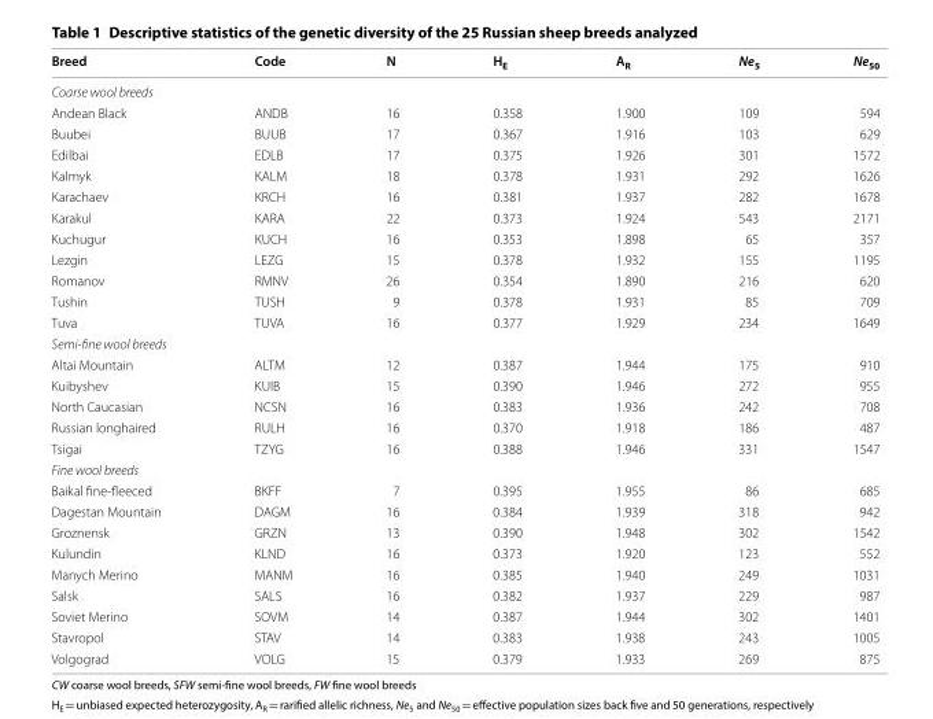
<table><thead><tr><td>Breed</td><td>Code</td><td>N</td><td>H<sub>E</sub></td><td>A<sub>R</sub></td><td>Ne<sub>5</sub></td><td>Ne<sub>50</sub></td></tr></thead><tbody><tr><td colspan="7">Coarse wool breeds</td></tr><tr><td>Andean Black</td><td>ANDB</td><td>16</td><td>0.358</td><td>1.900</td><td>109</td><td>594</td></tr><tr><td>Buubei</td><td>BUUB</td><td>17</td><td>0.367</td><td>1.916</td><td>103</td><td>629</td></tr><tr><td>Edilbai</td><td>EDLB</td><td>17</td><td>0.375</td><td>1.926</td><td>301</td><td>1572</td></tr><tr><td>Kalmyk</td><td>KALM</td><td>18</td><td>0.378</td><td>1.931</td><td>292</td><td>1626</td></tr><tr><td>Karachaev</td><td>KRCH</td><td>16</td><td>0.381</td><td>1.937</td><td>282</td><td>1678</td></tr><tr><td>Karakul</td><td>KARA</td><td>22</td><td>0.373</td><td>1.924</td><td>543</td><td>2171</td></tr><tr><td>Kuchugur</td><td>KUCH</td><td>16</td><td>0.353</td><td>1.898</td><td>65</td><td>357</td></tr><tr><td>Lezgin</td><td>LEZG</td><td>15</td><td>0.378</td><td>1.932</td><td>155</td><td>1195</td></tr><tr><td>Romanov</td><td>RMNV</td><td>26</td><td>0.354</td><td>1.890</td><td>216</td><td>620</td></tr><tr><td>Tushin</td><td>TUSH</td><td>9</td><td>0.378</td><td>1.931</td><td>85</td><td>709</td></tr><tr><td>Tuva</td><td>TUVA</td><td>16</td><td>0.377</td><td>1.929</td><td>234</td><td>1649</td></tr><tr><td colspan="7">Semi-fine wool breeds</td></tr><tr><td>Altai Mountain</td><td>ALTM</td><td>12</td><td>0.387</td><td>1.944</td><td>175</td><td>910</td></tr><tr><td>Kuibyshev</td><td>KUIB</td><td>15</td><td>0.390</td><td>1.946</td><td>272</td><td>955</td></tr><tr><td>North Caucasian</td><td>NCSN</td><td>16</td><td>0.383</td><td>1.936</td><td>242</td><td>708</td></tr><tr><td>Russian longhaired</td><td>RULH</td><td>16</td><td>0.370</td><td>1.918</td><td>186</td><td>487</td></tr><tr><td>Tsigai</td><td>TZYG</td><td>16</td><td>0.388</td><td>1.946</td><td>331</td><td>1547</td></tr><tr><td colspan="7">Fine wool breeds</td></tr><tr><td>Baikal fine-fleeced</td><td>BKFF</td><td>7</td><td>0.395</td><td>1.955</td><td>86</td><td>685</td></tr><tr><td>Dagestan Mountain</td><td>DAGM</td><td>16</td><td>0.384</td><td>1.939</td><td>318</td><td>942</td></tr><tr><td>Groznensk</td><td>GRZN</td><td>13</td><td>0.390</td><td>1.948</td><td>302</td><td>1542</td></tr><tr><td>Kulundin</td><td>KLND</td><td>16</td><td>0.373</td><td>1.920</td><td>123</td><td>552</td></tr><tr><td>Manych Merino</td><td>MANM</td><td>16</td><td>0.385</td><td>1.940</td><td>249</td><td>1031</td></tr><tr><td>Salsk</td><td>SALS</td><td>16</td><td>0.382</td><td>1.937</td><td>229</td><td>987</td></tr><tr><td>Soviet Merino</td><td>SOVM</td><td>14</td><td>0.387</td><td>1.944</td><td>302</td><td>1401</td></tr><tr><td>Stavropol</td><td>STAV</td><td>14</td><td>0.383</td><td>1.938</td><td>243</td><td>1005</td></tr><tr><td>Volgograd</td><td>VOLG</td><td>15</td><td>0.379</td><td>1.933</td><td>269</td><td>875</td></tr></tbody></table>